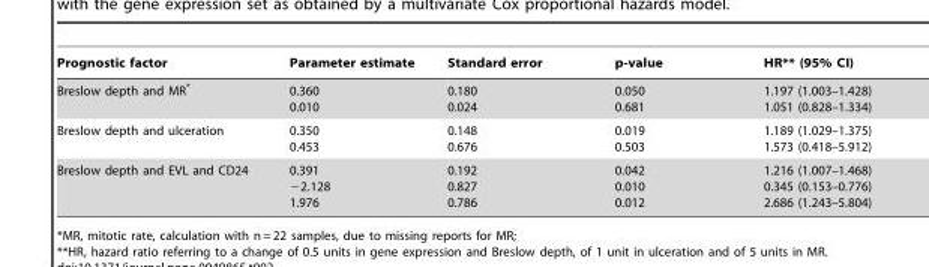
<table><thead><tr><td>Prognostic factor</td><td>Parameter estimate</td><td>Standard error</td><td>p-value</td><td>HR** (95% CI)</td></tr></thead><tbody><tr><td>Breslow depth and MR*</td><td>0.360 0.010</td><td>0.180 0.024</td><td>0.050 0.681</td><td>1.197 (1.003–1.428) 1.051 (0.828–1.334)</td></tr><tr><td>Breslow depth and ulceration</td><td>0.350 0.453</td><td>0.148 0.676</td><td>0.019 0.503</td><td>1.189 (1.029–1.375) 1.573 (0.418–5.912)</td></tr><tr><td>Breslow depth and EVL and CD24</td><td>0.391 −2.128 1.976</td><td>0.192 0.827 0.786</td><td>0.042 0.010 0.012</td><td>1.216 (1.007–1.468) 0.345 (0.153–0.776) 2.686 (1.243–5.804)</td></tr></tbody></table>